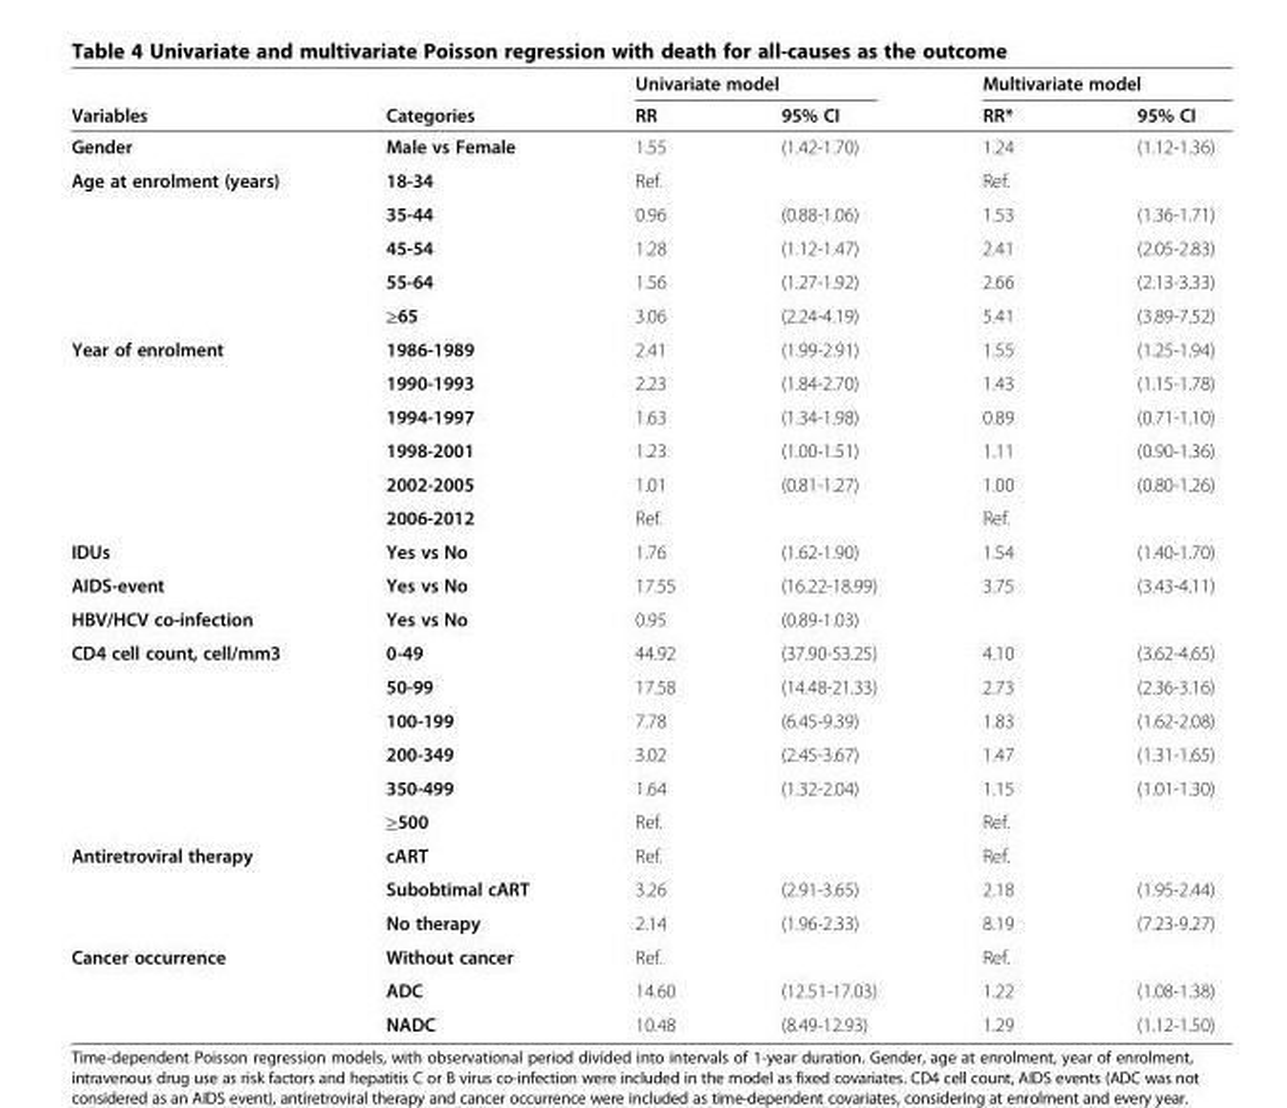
<table><thead><tr><td rowspan="2">Variables</td><td rowspan="2">Categories</td><td colspan="2">Univariate model</td><td colspan="2">Multivariate model</td></tr><tr><td>RR</td><td>95% CI</td><td>RR*</td><td>95% CI</td></tr></thead><tbody><tr><td>Gender</td><td>Male vs Female</td><td>1.55</td><td>(1.42-1.70)</td><td>1.24</td><td>(1.12-1.36)</td></tr><tr><td rowspan="5">Age at enrolment (years)</td><td>18-34</td><td>Ref.</td><td></td><td>Ref.</td><td></td></tr><tr><td>35-44</td><td>0.96</td><td>(0.88-1.06)</td><td>1.53</td><td>(1.36-1.71)</td></tr><tr><td>45-54</td><td>1.28</td><td>(1.12-1.47)</td><td>2.41</td><td>(2.05-2.83)</td></tr><tr><td>55-64</td><td>1.56</td><td>(1.27-1.92)</td><td>2.66</td><td>(2.13-3.33)</td></tr><tr><td>≥65</td><td>3.06</td><td>(2.24-4.19)</td><td>5.41</td><td>(3.89-7.52)</td></tr><tr><td rowspan="6">Year of enrolment</td><td>1986-1989</td><td>2.41</td><td>(1.99-2.91)</td><td>1.55</td><td>(1.25-1.94)</td></tr><tr><td>1990-1993</td><td>2.23</td><td>(1.84-2.70)</td><td>1.43</td><td>(1.15-1.78)</td></tr><tr><td>1994-1997</td><td>1.63</td><td>(1.34-1.98)</td><td>0.89</td><td>(0.71-1.10)</td></tr><tr><td>1998-2001</td><td>1.23</td><td>(1.00-1.51)</td><td>1.11</td><td>(0.90-1.36)</td></tr><tr><td>2002-2005</td><td>1.01</td><td>(0.81-1.27)</td><td>1.00</td><td>(0.80-1.26)</td></tr><tr><td>2006-2012</td><td>Ref.</td><td></td><td>Ref.</td><td></td></tr><tr><td>IDUs</td><td>Yes vs No</td><td>1.76</td><td>(1.62-1.90)</td><td>1.54</td><td>(1.40-1.70)</td></tr><tr><td>AIDS-event</td><td>Yes vs No</td><td>17.55</td><td>(16.22-18.99)</td><td>3.75</td><td>(3.43-4.11)</td></tr><tr><td>HBV/HCV co-infection</td><td>Yes vs No</td><td>0.95</td><td>(0.89-1.03)</td><td></td><td></td></tr><tr><td rowspan="6">CD4 cell count, cell/mm3</td><td>0-49</td><td>44.92</td><td>(37.90-53.25)</td><td>4.10</td><td>(3.62-4.65)</td></tr><tr><td>50-99</td><td>17.58</td><td>(14.48-21.33)</td><td>2.73</td><td>(2.36-3.16)</td></tr><tr><td>100-199</td><td>7.78</td><td>(6.45-9.39)</td><td>1.83</td><td>(1.62-2.08)</td></tr><tr><td>200-349</td><td>3.02</td><td>(2.45-3.67)</td><td>1.47</td><td>(1.31-1.65)</td></tr><tr><td>350-499</td><td>1.64</td><td>(1.32-2.04)</td><td>1.15</td><td>(1.01-1.30)</td></tr><tr><td>≥500</td><td>Ref.</td><td></td><td>Ref.</td><td></td></tr><tr><td rowspan="3">Antiretroviral therapy</td><td>cART</td><td>Ref.</td><td></td><td>Ref.</td><td></td></tr><tr><td>Subobtimal cART</td><td>3.26</td><td>(2.91-3.65)</td><td>2.18</td><td>(1.95-2.44)</td></tr><tr><td>No therapy</td><td>2.14</td><td>(1.96-2.33)</td><td>8.19</td><td>(7.23-9.27)</td></tr><tr><td rowspan="3">Cancer occurrence</td><td>Without cancer</td><td>Ref.</td><td></td><td>Ref.</td><td></td></tr><tr><td>ADC</td><td>14.60</td><td>(12.51-17.03)</td><td>1.22</td><td>(1.08-1.38)</td></tr><tr><td>NADC</td><td>10.48</td><td>(8.49-12.93)</td><td>1.29</td><td>(1.12-1.50)</td></tr></tbody></table>